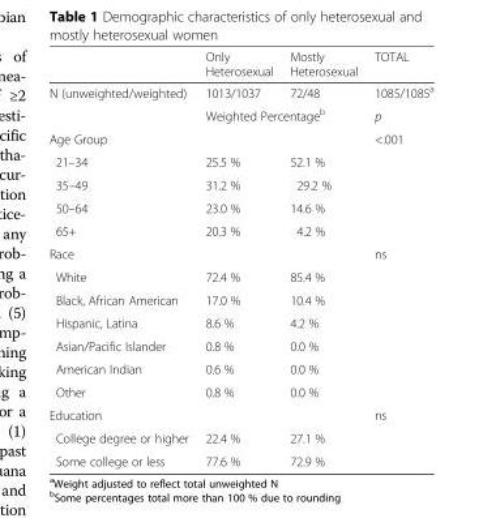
<table><thead><tr><td></td><td>Only Heterosexual</td><td>Mostly Heterosexual</td><td>TOTAL</td></tr></thead><tbody><tr><td rowspan="2">N (unweighted/weighted)</td><td>1013/1037</td><td>72/48</td><td>1085/1085<sup>a</sup></td></tr><tr><td colspan="2">Weighted Percentage<sup>b</sup></td><td>p</td></tr><tr><td>Age Group</td><td></td><td></td><td>&lt;.001</td></tr><tr><td>21–34</td><td>25.5 %</td><td>52.1 %</td><td></td></tr><tr><td>35–49</td><td>31.2 %</td><td>29.2 %</td><td></td></tr><tr><td>50–64</td><td>23.0 %</td><td>14.6 %</td><td></td></tr><tr><td>65+</td><td>20.3 %</td><td>4.2 %</td><td></td></tr><tr><td>Race</td><td></td><td></td><td>ns</td></tr><tr><td>White</td><td>72.4 %</td><td>85.4 %</td><td></td></tr><tr><td>Black, African American</td><td>17.0 %</td><td>10.4 %</td><td></td></tr><tr><td>Hispanic, Latina</td><td>8.6 %</td><td>4.2 %</td><td></td></tr><tr><td>Asian/Pacific Islander</td><td>0.8 %</td><td>0.0 %</td><td></td></tr><tr><td>American Indian</td><td>0.6 %</td><td>0.0 %</td><td></td></tr><tr><td>Other</td><td>0.8 %</td><td>0.0 %</td><td></td></tr><tr><td>Education</td><td></td><td></td><td>ns</td></tr><tr><td>College degree or higher</td><td>22.4 %</td><td>27.1 %</td><td></td></tr><tr><td>Some college or less</td><td>77.6 %</td><td>72.9 %</td><td></td></tr></tbody></table>